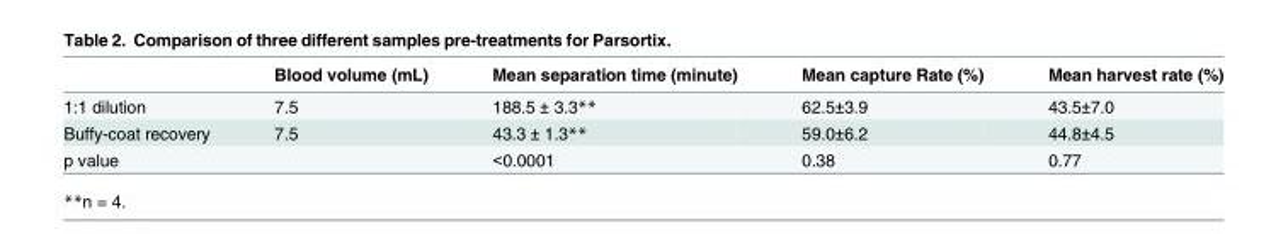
<table><thead><tr><td></td><td>Blood volume (mL)</td><td>Mean separation time (minute)</td><td>Mean capture Rate (%)</td><td>Mean harvest rate (%)</td></tr></thead><tbody><tr><td>1:1 dilution</td><td>7.5</td><td>188.5 ± 3.3**</td><td>62.5±3.9</td><td>43.5±7.0</td></tr><tr><td>Buffy-coat recovery</td><td>7.5</td><td>43.3 ± 1.3**</td><td>59.0±6.2</td><td>44.8±4.5</td></tr><tr><td>p value</td><td></td><td>&lt;0.0001</td><td>0.38</td><td>0.77</td></tr></tbody></table>